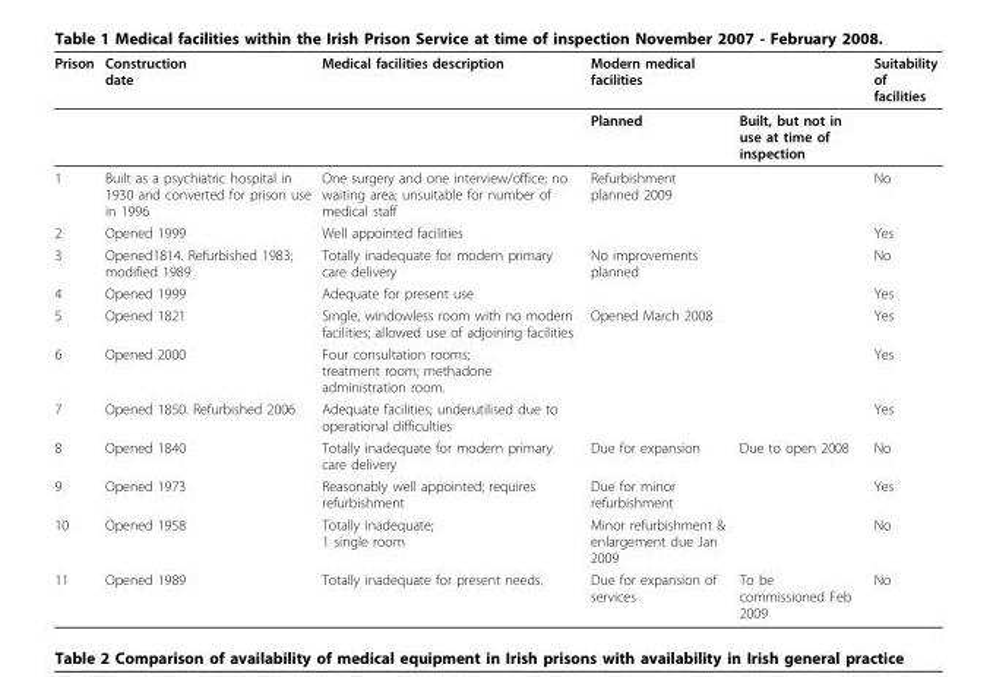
<table><thead><tr><td>Prison</td><td>Construction date</td><td>Medical facilities description</td><td>Modern medical facilities</td><td></td><td>Suitability of facilities</td></tr></thead><tbody><tr><td></td><td></td><td></td><td>Planned</td><td>Built, but not in use at time of inspection</td><td></td></tr><tr><td>1</td><td>Built as a psychiatric hospital in 1930 and converted for prison use in 1996</td><td>One surgery and one interview/office; no waiting area; unsuitable for number of medical staff</td><td>Refurbishment planned 2009</td><td></td><td>No</td></tr><tr><td>2</td><td>Opened 1999</td><td>Well appointed facilities</td><td></td><td></td><td>Yes</td></tr><tr><td>3</td><td>Opened1814. Refurbished 1983; modified 1989</td><td>Totally inadequate for modern primary care delivery</td><td>No improvements planned</td><td></td><td>No</td></tr><tr><td>4</td><td>Opened 1999</td><td>Adequate for present use</td><td></td><td></td><td>Yes</td></tr><tr><td>5</td><td>Opened 1821</td><td>Single, windowless room with no modern facilities; allowed use of adjoining facilities</td><td>Opened March 2008</td><td></td><td>Yes</td></tr><tr><td>6</td><td>Opened 2000</td><td>Four consultation rooms; treatment room; methadone administration room.</td><td></td><td></td><td>Yes</td></tr><tr><td>7</td><td>Opened 1850. Refurbished 2006</td><td>Adequate facilities; underutilised due to operational difficulties</td><td></td><td></td><td>Yes</td></tr><tr><td>8</td><td>Opened 1840</td><td>Totally inadequate for modern primary care delivery</td><td>Due for expansion</td><td>Due to open 2008</td><td>No</td></tr><tr><td>9</td><td>Opened 1973</td><td>Reasonably well appointed; requires refurbishment</td><td>Due for minor refurbishment</td><td></td><td>Yes</td></tr><tr><td>10</td><td>Opened 1958</td><td>Totally inadequate; 1 single room</td><td>Minor refurbishment &amp; enlargement due Jan 2009</td><td></td><td>No</td></tr><tr><td>11</td><td>Opened 1989</td><td>Totally inadequate for present needs.</td><td>Due for expansion of services</td><td>To be commissioned Feb 2009</td><td>No</td></tr></tbody></table>